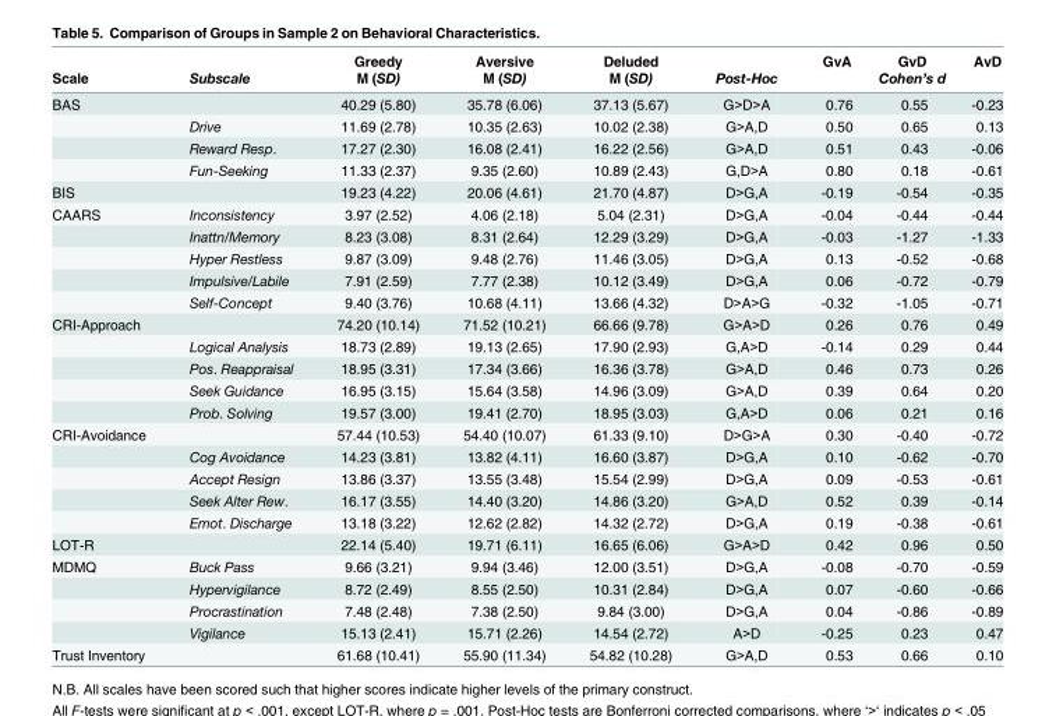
<table><thead><tr><td rowspan="2">Scale</td><td rowspan="2">Subscale</td><td rowspan="2">Greedy M (SD)</td><td rowspan="2">Aversive M (SD)</td><td rowspan="2">Deluded M (SD)</td><td rowspan="2">Post-Hoc</td><td>GvA</td><td>GvD</td><td>AvD</td></tr><tr><td colspan="3">Cohen’s d</td></tr></thead><tbody><tr><td rowspan="4">BAS</td><td></td><td>40.29 (5.80)</td><td>35.78 (6.06)</td><td>37.13 (5.67)</td><td>G&gt;D&gt;A</td><td>0.76</td><td>0.55</td><td>-0.23</td></tr><tr><td>Drive</td><td>11.69 (2.78)</td><td>10.35 (2.63)</td><td>10.02 (2.38)</td><td>G&gt;A,D</td><td>0.50</td><td>0.65</td><td>0.13</td></tr><tr><td>Reward Resp.</td><td>17.27 (2.30)</td><td>16.08 (2.41)</td><td>16.22 (2.56)</td><td>G&gt;A,D</td><td>0.51</td><td>0.43</td><td>-0.06</td></tr><tr><td>Fun-Seeking</td><td>11.33 (2.37)</td><td>9.35 (2.60)</td><td>10.89 (2.43)</td><td>G,D&gt;A</td><td>0.80</td><td>0.18</td><td>-0.61</td></tr><tr><td>BIS</td><td></td><td>19.23 (4.22)</td><td>20.06 (4.61)</td><td>21.70 (4.87)</td><td>D&gt;G,A</td><td>-0.19</td><td>-0.54</td><td>-0.35</td></tr><tr><td rowspan="5">CAARS</td><td>Inconsistency</td><td>3.97 (2.52)</td><td>4.06 (2.18)</td><td>5.04 (2.31)</td><td>D&gt;G,A</td><td>-0.04</td><td>-0.44</td><td>-0.44</td></tr><tr><td>Inattn/Memory</td><td>8.23 (3.08)</td><td>8.31 (2.64)</td><td>12.29 (3.29)</td><td>D&gt;G,A</td><td>-0.03</td><td>-1.27</td><td>-1.33</td></tr><tr><td>Hyper Restless</td><td>9.87 (3.09)</td><td>9.48 (2.76)</td><td>11.46 (3.05)</td><td>D&gt;G,A</td><td>0.13</td><td>-0.52</td><td>-0.68</td></tr><tr><td>Impulsive/Labile</td><td>7.91 (2.59)</td><td>7.77 (2.38)</td><td>10.12 (3.49)</td><td>D&gt;G,A</td><td>0.06</td><td>-0.72</td><td>-0.79</td></tr><tr><td>Self-Concept</td><td>9.40 (3.76)</td><td>10.68 (4.11)</td><td>13.66 (4.32)</td><td>D&gt;A&gt;G</td><td>-0.32</td><td>-1.05</td><td>-0.71</td></tr><tr><td rowspan="5">CRI-Approach</td><td></td><td>74.20 (10.14)</td><td>71.52 (10.21)</td><td>66.66 (9.78)</td><td>G&gt;A&gt;D</td><td>0.26</td><td>0.76</td><td>0.49</td></tr><tr><td>Logical Analysis</td><td>18.73 (2.89)</td><td>19.13 (2.65)</td><td>17.90 (2.93)</td><td>G,A&gt;D</td><td>-0.14</td><td>0.29</td><td>0.44</td></tr><tr><td>Pos. Reappraisal</td><td>18.95 (3.31)</td><td>17.34 (3.66)</td><td>16.36 (3.78)</td><td>G&gt;A,D</td><td>0.46</td><td>0.73</td><td>0.26</td></tr><tr><td>Seek Guidance</td><td>16.95 (3.15)</td><td>15.64 (3.58)</td><td>14.96 (3.09)</td><td>G&gt;A,D</td><td>0.39</td><td>0.64</td><td>0.20</td></tr><tr><td>Prob. Solving</td><td>19.57 (3.00)</td><td>19.41 (2.70)</td><td>18.95 (3.03)</td><td>G,A&gt;D</td><td>0.06</td><td>0.21</td><td>0.16</td></tr><tr><td rowspan="5">CRI-Avoidance</td><td></td><td>57.44 (10.53)</td><td>54.40 (10.07)</td><td>61.33 (9.10)</td><td>D&gt;G&gt;A</td><td>0.30</td><td>-0.40</td><td>-0.72</td></tr><tr><td>Cog Avoidance</td><td>14.23 (3.81)</td><td>13.82 (4.11)</td><td>16.60 (3.87)</td><td>D&gt;G,A</td><td>0.10</td><td>-0.62</td><td>-0.70</td></tr><tr><td>Accept Resign</td><td>13.86 (3.37)</td><td>13.55 (3.48)</td><td>15.54 (2.99)</td><td>D&gt;G,A</td><td>0.09</td><td>-0.53</td><td>-0.61</td></tr><tr><td>Seek Alter Rew.</td><td>16.17 (3.55)</td><td>14.40 (3.20)</td><td>14.86 (3.20)</td><td>G&gt;A,D</td><td>0.52</td><td>0.39</td><td>-0.14</td></tr><tr><td>Emot. Discharge</td><td>13.18 (3.22)</td><td>12.62 (2.82)</td><td>14.32 (2.72)</td><td>D&gt;G,A</td><td>0.19</td><td>-0.38</td><td>-0.61</td></tr><tr><td>LOT-R</td><td></td><td>22.14 (5.40)</td><td>19.71 (6.11)</td><td>16.65 (6.06)</td><td>G&gt;A&gt;D</td><td>0.42</td><td>0.96</td><td>0.50</td></tr><tr><td rowspan="4">MDMQ</td><td>Buck Pass</td><td>9.66 (3.21)</td><td>9.94 (3.46)</td><td>12.00 (3.51)</td><td>D&gt;G,A</td><td>-0.08</td><td>-0.70</td><td>-0.59</td></tr><tr><td>Hypervigilance</td><td>8.72 (2.49)</td><td>8.55 (2.50)</td><td>10.31 (2.84)</td><td>D&gt;G,A</td><td>0.07</td><td>-0.60</td><td>-0.66</td></tr><tr><td>Procrastination</td><td>7.48 (2.48)</td><td>7.38 (2.50)</td><td>9.84 (3.00)</td><td>D&gt;G,A</td><td>0.04</td><td>-0.86</td><td>-0.89</td></tr><tr><td>Vigilance</td><td>15.13 (2.41)</td><td>15.71 (2.26)</td><td>14.54 (2.72)</td><td>A&gt;D</td><td>-0.25</td><td>0.23</td><td>0.47</td></tr><tr><td>Trust Inventory</td><td></td><td>61.68 (10.41)</td><td>55.90 (11.34)</td><td>54.82 (10.28)</td><td>G&gt;A,D</td><td>0.53</td><td>0.66</td><td>0.10</td></tr></tbody></table>